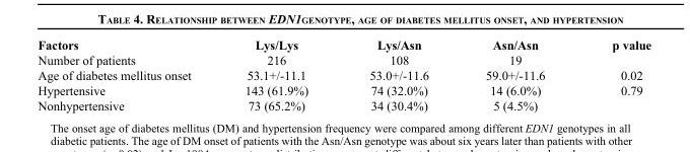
<table><thead><tr><td>Factors</td><td>Lys/Lys</td><td>Lys/Asn</td><td>Asn/Asn</td><td>p value</td></tr></thead><tbody><tr><td>Number of patients</td><td>216</td><td>108</td><td>19</td><td></td></tr><tr><td>Age of diabetes mellitus onset</td><td>53.1+/-11.1</td><td>53.0+/-11.6</td><td>59.0+/-11.6</td><td>0.02</td></tr><tr><td>Hypertensive</td><td>143 (61.9%)</td><td>74 (32.0%)</td><td>14 (6.0%)</td><td>0.79</td></tr><tr><td>Nonhypertensive</td><td>73 (65.2%)</td><td>34 (30.4%)</td><td>5 (4.5%)</td><td></td></tr></tbody></table>